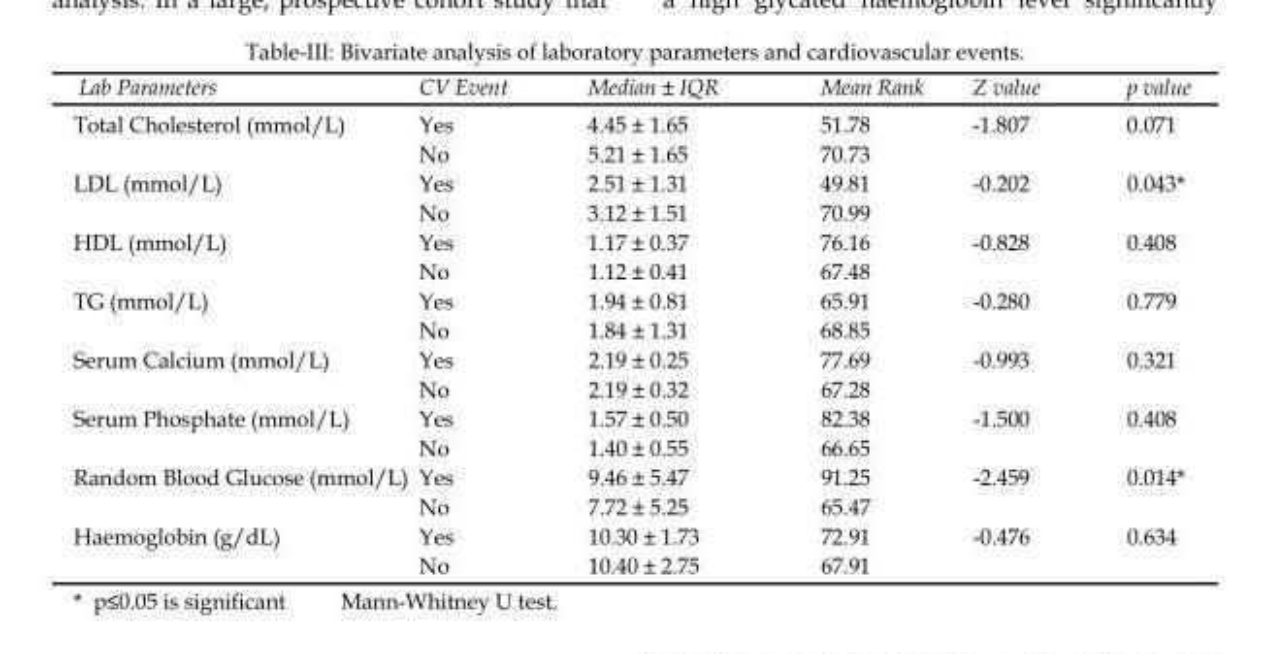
<table><thead><tr><td>Lab Parameters</td><td>CV Event</td><td>Median ± IQR</td><td>Mean Rank</td><td>Z value</td><td>p value</td></tr></thead><tbody><tr><td rowspan="2">Total Cholesterol (mmol/L)</td><td>Yes</td><td>4.45 ± 1.65</td><td>51.78</td><td rowspan="2">-1.807</td><td rowspan="2">0.071</td></tr><tr><td>No</td><td>5.21 ± 1.65</td><td>70.73</td></tr><tr><td rowspan="2">LDL (mmol/L)</td><td>Yes</td><td>2.51 ± 1.31</td><td>49.81</td><td rowspan="2">-0.202</td><td rowspan="2">0.043*</td></tr><tr><td>No</td><td>3.12 ± 1.51</td><td>70.99</td></tr><tr><td rowspan="2">HDL (mmol/L)</td><td>Yes</td><td>1.17 ± 0.37</td><td>76.16</td><td rowspan="2">-0.828</td><td rowspan="2">0.408</td></tr><tr><td>No</td><td>1.12 ± 0.41</td><td>67.48</td></tr><tr><td rowspan="2">TG (mmol/L)</td><td>Yes</td><td>1.94 ± 0.81</td><td>65.91</td><td rowspan="2">-0.280</td><td rowspan="2">0.779</td></tr><tr><td>No</td><td>1.84 ± 1.31</td><td>68.85</td></tr><tr><td rowspan="2">Serum Calcium (mmol/L)</td><td>Yes</td><td>2.19 ± 0.25</td><td>77.69</td><td rowspan="2">-0.993</td><td rowspan="2">0.321</td></tr><tr><td>No</td><td>2.19 ± 0.32</td><td>67.28</td></tr><tr><td rowspan="2">Serum Phosphate (mmol/L)</td><td>Yes</td><td>1.57 ± 0.50</td><td>82.38</td><td rowspan="2">-1.500</td><td rowspan="2">0.408</td></tr><tr><td>No</td><td>1.40 ± 0.55</td><td>66.65</td></tr><tr><td rowspan="2">Random Blood Glucose (mmol/L)</td><td>Yes</td><td>9.46 ± 5.47</td><td>91.25</td><td rowspan="2">-2.459</td><td rowspan="2">0.014*</td></tr><tr><td>No</td><td>7.72 ± 5.25</td><td>65.47</td></tr><tr><td rowspan="2">Haemoglobin (g/dL)</td><td>Yes</td><td>10.30 ± 1.73</td><td>72.91</td><td rowspan="2">-0.476</td><td rowspan="2">0.634</td></tr><tr><td>No</td><td>10.40 ± 2.75</td><td>67.91</td></tr></tbody></table>